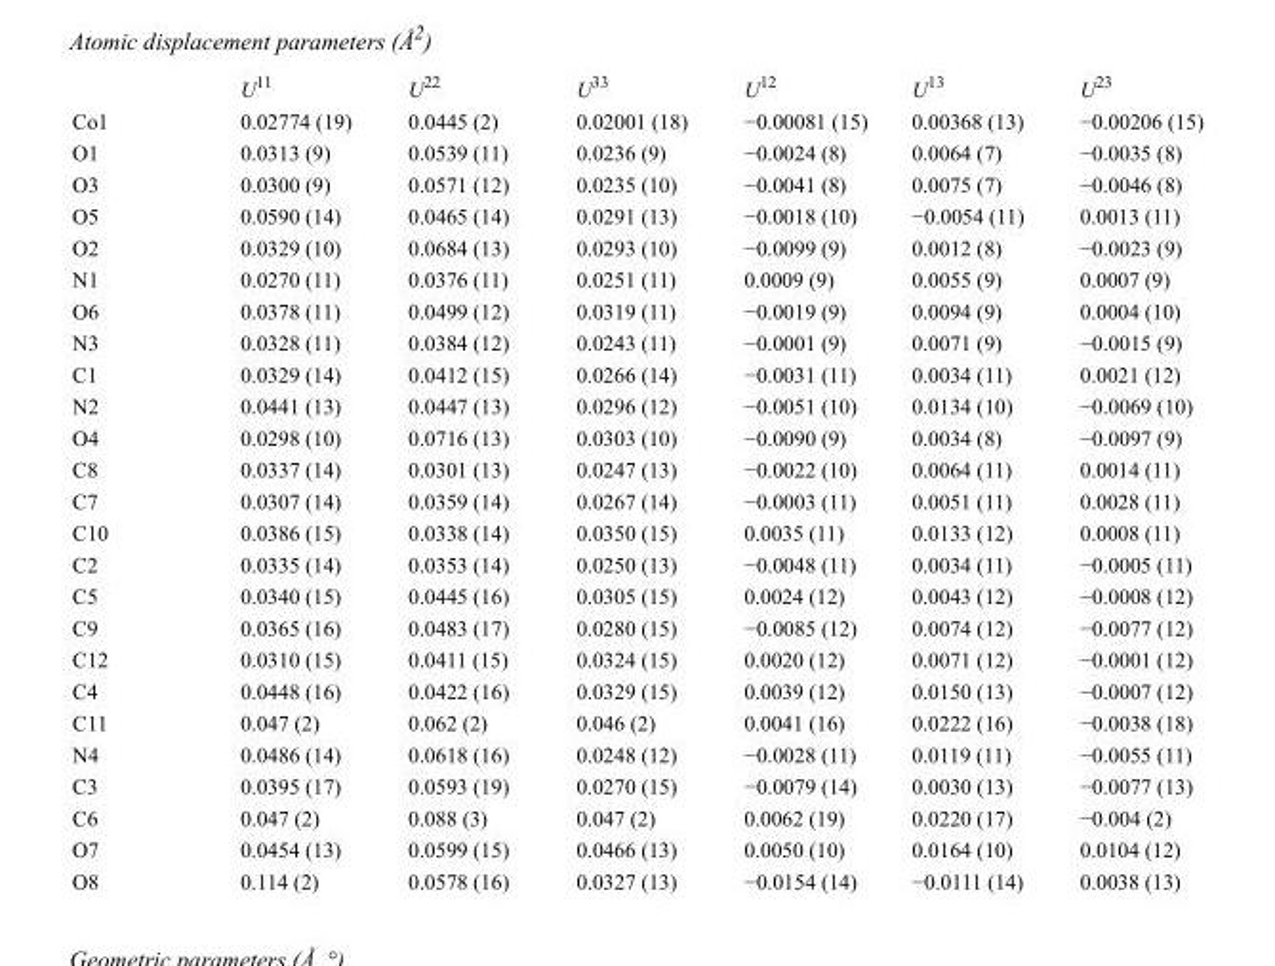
<table><thead><tr><td></td><td>U<sup>11</sup></td><td>U<sup>22</sup></td><td>U<sup>33</sup></td><td>U<sup>12</sup></td><td>U<sup>13</sup></td><td>U<sup>23</sup></td></tr></thead><tbody><tr><td>Co1</td><td>0.02774 (19)</td><td>0.0445 (2)</td><td>0.02001 (18)</td><td>−0.00081 (15)</td><td>0.00368 (13)</td><td>−0.00206 (15)</td></tr><tr><td>O1</td><td>0.0313 (9)</td><td>0.0539 (11)</td><td>0.0236 (9)</td><td>−0.0024 (8)</td><td>0.0064 (7)</td><td>−0.0035 (8)</td></tr><tr><td>O3</td><td>0.0300 (9)</td><td>0.0571 (12)</td><td>0.0235 (10)</td><td>−0.0041 (8)</td><td>0.0075 (7)</td><td>−0.0046 (8)</td></tr><tr><td>O5</td><td>0.0590 (14)</td><td>0.0465 (14)</td><td>0.0291 (13)</td><td>−0.0018 (10)</td><td>−0.0054 (11)</td><td>0.0013 (11)</td></tr><tr><td>O2</td><td>0.0329 (10)</td><td>0.0684 (13)</td><td>0.0293 (10)</td><td>−0.0099 (9)</td><td>0.0012 (8)</td><td>−0.0023 (9)</td></tr><tr><td>N1</td><td>0.0270 (11)</td><td>0.0376 (11)</td><td>0.0251 (11)</td><td>0.0009 (9)</td><td>0.0055 (9)</td><td>0.0007 (9)</td></tr><tr><td>O6</td><td>0.0378 (11)</td><td>0.0499 (12)</td><td>0.0319 (11)</td><td>−0.0019 (9)</td><td>0.0094 (9)</td><td>0.0004 (10)</td></tr><tr><td>N3</td><td>0.0328 (11)</td><td>0.0384 (12)</td><td>0.0243 (11)</td><td>−0.0001 (9)</td><td>0.0071 (9)</td><td>−0.0015 (9)</td></tr><tr><td>C1</td><td>0.0329 (14)</td><td>0.0412 (15)</td><td>0.0266 (14)</td><td>−0.0031 (11)</td><td>0.0034 (11)</td><td>0.0021 (12)</td></tr><tr><td>N2</td><td>0.0441 (13)</td><td>0.0447 (13)</td><td>0.0296 (12)</td><td>−0.0051 (10)</td><td>0.0134 (10)</td><td>−0.0069 (10)</td></tr><tr><td>O4</td><td>0.0298 (10)</td><td>0.0716 (13)</td><td>0.0303 (10)</td><td>−0.0090 (9)</td><td>0.0034 (8)</td><td>−0.0097 (9)</td></tr><tr><td>C8</td><td>0.0337 (14)</td><td>0.0301 (13)</td><td>0.0247 (13)</td><td>−0.0022 (10)</td><td>0.0064 (11)</td><td>0.0014 (11)</td></tr><tr><td>C7</td><td>0.0307 (14)</td><td>0.0359 (14)</td><td>0.0267 (14)</td><td>−0.0003 (11)</td><td>0.0051 (11)</td><td>0.0028 (11)</td></tr><tr><td>C10</td><td>0.0386 (15)</td><td>0.0338 (14)</td><td>0.0350 (15)</td><td>0.0035 (11)</td><td>0.0133 (12)</td><td>0.0008 (11)</td></tr><tr><td>C2</td><td>0.0335 (14)</td><td>0.0353 (14)</td><td>0.0250 (13)</td><td>−0.0048 (11)</td><td>0.0034 (11)</td><td>−0.0005 (11)</td></tr><tr><td>C5</td><td>0.0340 (15)</td><td>0.0445 (16)</td><td>0.0305 (15)</td><td>0.0024 (12)</td><td>0.0043 (12)</td><td>−0.0008 (12)</td></tr><tr><td>C9</td><td>0.0365 (16)</td><td>0.0483 (17)</td><td>0.0280 (15)</td><td>−0.0085 (12)</td><td>0.0074 (12)</td><td>−0.0077 (12)</td></tr><tr><td>C12</td><td>0.0310 (15)</td><td>0.0411 (15)</td><td>0.0324 (15)</td><td>0.0020 (12)</td><td>0.0071 (12)</td><td>−0.0001 (12)</td></tr><tr><td>C4</td><td>0.0448 (16)</td><td>0.0422 (16)</td><td>0.0329 (15)</td><td>0.0039 (12)</td><td>0.0150 (13)</td><td>−0.0007 (12)</td></tr><tr><td>C11</td><td>0.047 (2)</td><td>0.062 (2)</td><td>0.046 (2)</td><td>0.0041 (16)</td><td>0.0222 (16)</td><td>−0.0038 (18)</td></tr><tr><td>N4</td><td>0.0486 (14)</td><td>0.0618 (16)</td><td>0.0248 (12)</td><td>−0.0028 (11)</td><td>0.0119 (11)</td><td>−0.0055 (11)</td></tr><tr><td>C3</td><td>0.0395 (17)</td><td>0.0593 (19)</td><td>0.0270 (15)</td><td>−0.0079 (14)</td><td>0.0030 (13)</td><td>−0.0077 (13)</td></tr><tr><td>C6</td><td>0.047 (2)</td><td>0.088 (3)</td><td>0.047 (2)</td><td>0.0062 (19)</td><td>0.0220 (17)</td><td>−0.004 (2)</td></tr><tr><td>O7</td><td>0.0454 (13)</td><td>0.0599 (15)</td><td>0.0466 (13)</td><td>0.0050 (10)</td><td>0.0164 (10)</td><td>0.0104 (12)</td></tr><tr><td>O8</td><td>0.114 (2)</td><td>0.0578 (16)</td><td>0.0327 (13)</td><td>−0.0154 (14)</td><td>−0.0111 (14)</td><td>0.0038 (13)</td></tr></tbody></table>